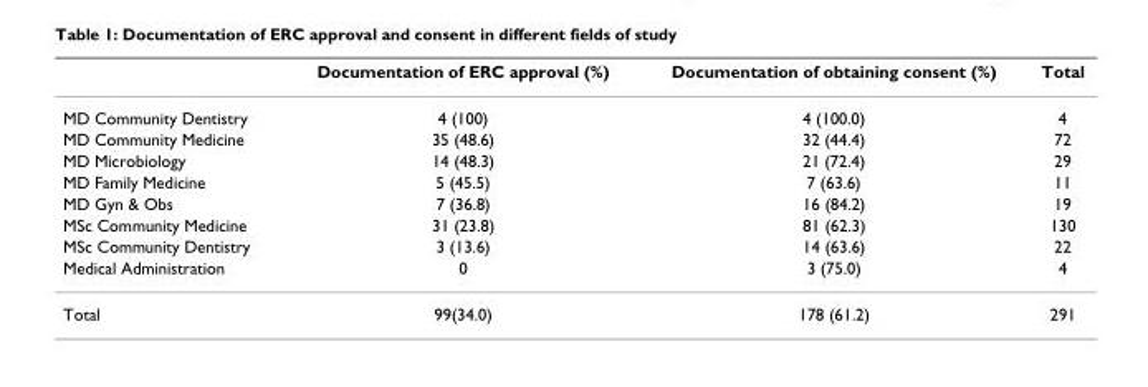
<table><thead><tr><td></td><td>Documentation of ERC approval (%)</td><td>Documentation of obtaining consent (%)</td><td>Total</td></tr></thead><tbody><tr><td>MD Community Dentistry</td><td>4 (100)</td><td>4 (100.0)</td><td>4</td></tr><tr><td>MD Community Medicine</td><td>35 (48.6)</td><td>32 (44.4)</td><td>72</td></tr><tr><td>MD Microbiology</td><td>14 (48.3)</td><td>21 (72.4)</td><td>29</td></tr><tr><td>MD Family Medicine</td><td>5 (45.5)</td><td>7 (63.6)</td><td>11</td></tr><tr><td>MD Gyn &amp; Obs</td><td>7 (36.8)</td><td>16 (84.2)</td><td>19</td></tr><tr><td>MSc Community Medicine</td><td>31 (23.8)</td><td>81 (62.3)</td><td>130</td></tr><tr><td>MSc Community Dentistry</td><td>3 (13.6)</td><td>14 (63.6)</td><td>22</td></tr><tr><td>Medical Administration</td><td>0</td><td>3 (75.0)</td><td>4</td></tr><tr><td>Total</td><td>99(34.0)</td><td>178 (61.2)</td><td>291</td></tr></tbody></table>